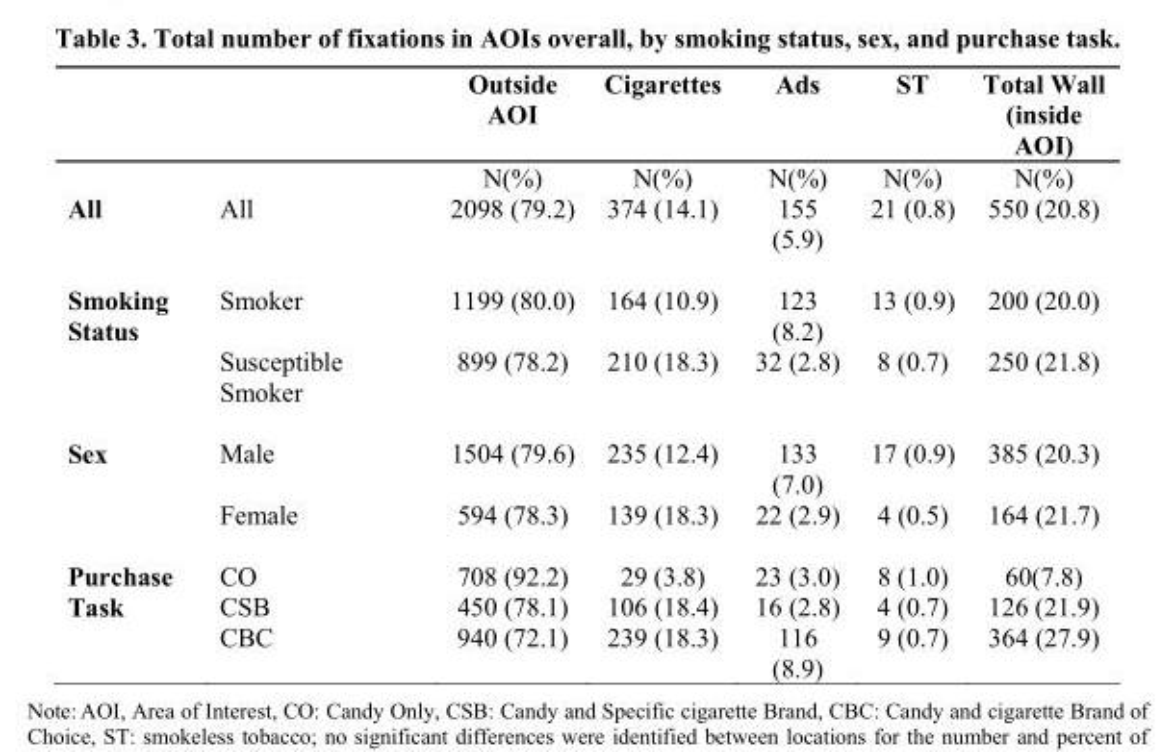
<table><thead><tr><td></td><td></td><td>Outside AOI</td><td>Cigarettes</td><td>Ads</td><td>ST</td><td>Total Wall (inside AOI)</td></tr></thead><tbody><tr><td></td><td></td><td>N(%)</td><td>N(%)</td><td>N(%)</td><td>N(%)</td><td>N(%)</td></tr><tr><td>All</td><td>All</td><td>2098 (79.2)</td><td>374 (14.1)</td><td>155 (5.9)</td><td>21 (0.8)</td><td>550 (20.8)</td></tr><tr><td rowspan="2">Smoking Status</td><td>Smoker</td><td>1199 (80.0)</td><td>164 (10.9)</td><td>123 (8.2)</td><td>13 (0.9)</td><td>200 (20.0)</td></tr><tr><td>Susceptible Smoker</td><td>899 (78.2)</td><td>210 (18.3)</td><td>32 (2.8)</td><td>8 (0.7)</td><td>250 (21.8)</td></tr><tr><td rowspan="2">Sex</td><td>Male</td><td>1504 (79.6)</td><td>235 (12.4)</td><td>133 (7.0)</td><td>17 (0.9)</td><td>385 (20.3)</td></tr><tr><td>Female</td><td>594 (78.3)</td><td>139 (18.3)</td><td>22 (2.9)</td><td>4 (0.5)</td><td>164 (21.7)</td></tr><tr><td rowspan="3">Purchase Task</td><td>CO</td><td>708 (92.2)</td><td>29 (3.8)</td><td>23 (3.0)</td><td>8 (1.0)</td><td>60(7.8)</td></tr><tr><td>CSB</td><td>450 (78.1)</td><td>106 (18.4)</td><td>16 (2.8)</td><td>4 (0.7)</td><td>126 (21.9)</td></tr><tr><td>CBC</td><td>940 (72.1)</td><td>239 (18.3)</td><td>116 (8.9)</td><td>9 (0.7)</td><td>364 (27.9)</td></tr></tbody></table>